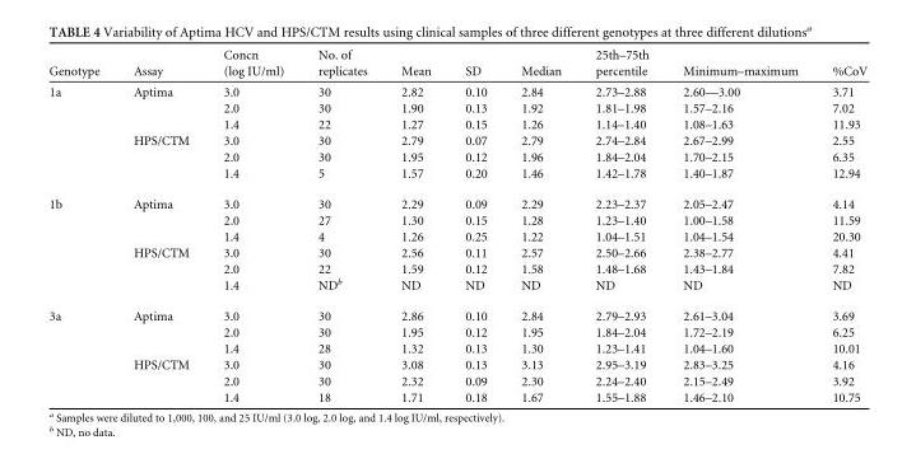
<table><thead><tr><td>Genotype</td><td>Assay</td><td>Concn (log IU/ml)</td><td>No. of replicates</td><td>Mean</td><td>SD</td><td>Median</td><td>25th–75th percentile</td><td>Minimum–maximum</td><td>%CoV</td></tr></thead><tbody><tr><td rowspan="6">1a</td><td rowspan="3">Aptima</td><td>3.0</td><td>30</td><td>2.82</td><td>0.10</td><td>2.84</td><td>2.73–2.88</td><td>2.60—3.00</td><td>3.71</td></tr><tr><td>2.0</td><td>30</td><td>1.90</td><td>0.13</td><td>1.92</td><td>1.81–1.98</td><td>1.57–2.16</td><td>7.02</td></tr><tr><td>1.4</td><td>22</td><td>1.27</td><td>0.15</td><td>1.26</td><td>1.14–1.40</td><td>1.08–1.63</td><td>11.93</td></tr><tr><td rowspan="3">HPS/CTM</td><td>3.0</td><td>30</td><td>2.79</td><td>0.07</td><td>2.79</td><td>2.74–2.84</td><td>2.67–2.99</td><td>2.55</td></tr><tr><td>2.0</td><td>30</td><td>1.95</td><td>0.12</td><td>1.96</td><td>1.84–2.04</td><td>1.70–2.15</td><td>6.35</td></tr><tr><td>1.4</td><td>5</td><td>1.57</td><td>0.20</td><td>1.46</td><td>1.42–1.78</td><td>1.40–1.87</td><td>12.94</td></tr><tr><td rowspan="6">1b</td><td rowspan="3">Aptima</td><td>3.0</td><td>30</td><td>2.29</td><td>0.09</td><td>2.29</td><td>2.23–2.37</td><td>2.05–2.47</td><td>4.14</td></tr><tr><td>2.0</td><td>27</td><td>1.30</td><td>0.15</td><td>1.28</td><td>1.23–1.40</td><td>1.00–1.58</td><td>11.59</td></tr><tr><td>1.4</td><td>4</td><td>1.26</td><td>0.25</td><td>1.22</td><td>1.04–1.51</td><td>1.04–1.54</td><td>20.30</td></tr><tr><td rowspan="3">HPS/CTM</td><td>3.0</td><td>30</td><td>2.56</td><td>0.11</td><td>2.57</td><td>2.50–2.66</td><td>2.38–2.77</td><td>4.41</td></tr><tr><td>2.0</td><td>22</td><td>1.59</td><td>0.12</td><td>1.58</td><td>1.48–1.68</td><td>1.43–1.84</td><td>7.82</td></tr><tr><td>1.4</td><td>ND<sup>b</sup></td><td>ND</td><td>ND</td><td>ND</td><td>ND</td><td>ND</td><td>ND</td></tr><tr><td rowspan="6">3a</td><td rowspan="3">Aptima</td><td>3.0</td><td>30</td><td>2.86</td><td>0.10</td><td>2.84</td><td>2.79–2.93</td><td>2.61–3.04</td><td>3.69</td></tr><tr><td>2.0</td><td>30</td><td>1.95</td><td>0.12</td><td>1.95</td><td>1.84–2.04</td><td>1.72–2.19</td><td>6.25</td></tr><tr><td>1.4</td><td>28</td><td>1.32</td><td>0.13</td><td>1.30</td><td>1.23–1.41</td><td>1.04–1.60</td><td>10.01</td></tr><tr><td rowspan="3">HPS/CTM</td><td>3.0</td><td>30</td><td>3.08</td><td>0.13</td><td>3.13</td><td>2.95–3.19</td><td>2.83–3.25</td><td>4.16</td></tr><tr><td>2.0</td><td>30</td><td>2.32</td><td>0.09</td><td>2.30</td><td>2.24–2.40</td><td>2.15–2.49</td><td>3.92</td></tr><tr><td>1.4</td><td>18</td><td>1.71</td><td>0.18</td><td>1.67</td><td>1.55–1.88</td><td>1.46–2.10</td><td>10.75</td></tr></tbody></table>